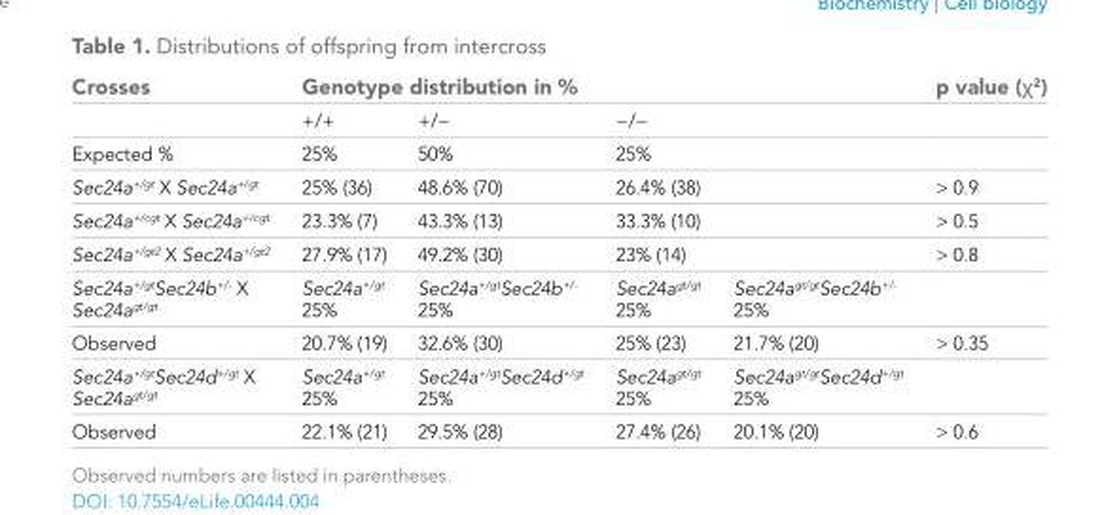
<table><thead><tr><td rowspan="2">Crosses</td><td colspan="4">Genotype distribution in %</td><td rowspan="2">p value (χ<sup>2</sup>)</td></tr><tr><td>+/+</td><td>+/−</td><td>−/−</td><td></td></tr></thead><tbody><tr><td>Expected %</td><td>25%</td><td>50%</td><td>25%</td><td></td><td></td></tr><tr><td>Sec24a<sup>+/gt</sup> X Sec24a<sup>+/gt</sup></td><td>25% (36)</td><td>48.6% (70)</td><td>26.4% (38)</td><td></td><td>&gt; 0.9</td></tr><tr><td>Sec24a<sup>+/cgt</sup> X Sec24a<sup>+/cgt</sup></td><td>23.3% (7)</td><td>43.3% (13)</td><td>33.3% (10)</td><td></td><td>&gt; 0.5</td></tr><tr><td>Sec24a<sup>+/gt2</sup> X Sec24a<sup>+/gt2</sup></td><td>27.9% (17)</td><td>49.2% (30)</td><td>23% (14)</td><td></td><td>&gt; 0.8</td></tr><tr><td>Sec24a<sup>+/gt</sup>Sec24b<sup>+/-</sup> X Sec24a<sup>gt/gt</sup></td><td>Sec24a<sup>+/gt</sup> 25%</td><td>Sec24a<sup>+/gt</sup>Sec24b<sup>+/-</sup> 25%</td><td>Sec24a<sup>gt/gt</sup> 25%</td><td>Sec24a<sup>gt/gt</sup>Sec24b<sup>+/-</sup> 25%</td><td></td></tr><tr><td>Observed</td><td>20.7% (19)</td><td>32.6% (30)</td><td>25% (23)</td><td>21.7% (20)</td><td>&gt; 0.35</td></tr><tr><td>Sec24a<sup>+/gt</sup>Sec24d<sup>+/gt</sup> X Sec24a<sup>gt/gt</sup></td><td>Sec24a<sup>+/gt</sup> 25%</td><td>Sec24a<sup>+/gt</sup>Sec24d<sup>+/gt</sup> 25%</td><td>Sec24a<sup>gt/gt</sup> 25%</td><td>Sec24a<sup>gt/gt</sup>Sec24d<sup>+/gt</sup> 25%</td><td></td></tr><tr><td>Observed</td><td>22.1% (21)</td><td>29.5% (28)</td><td>27.4% (26)</td><td>20.1% (20)</td><td>&gt; 0.6</td></tr></tbody></table>